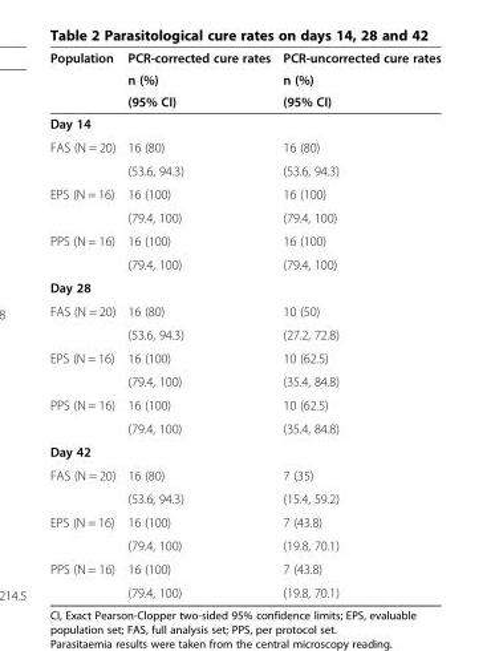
<table><thead><tr><td rowspan="3">Population</td><td rowspan="3">PCR-corrected cure rates n (%) (95% CI)</td><td rowspan="3">PCR-uncorrected cure rates n (%) (95% CI)</td></tr><tr></tr><tr></tr></thead><tbody><tr><td colspan="3">Day 14</td></tr><tr><td rowspan="2">FAS (N = 20)</td><td>16 (80)</td><td>16 (80)</td></tr><tr><td>(53.6, 94.3)</td><td>(53.6, 94.3)</td></tr><tr><td rowspan="2">EPS (N = 16)</td><td>16 (100)</td><td>16 (100)</td></tr><tr><td>(79.4, 100)</td><td>(79.4, 100)</td></tr><tr><td rowspan="2">PPS (N = 16)</td><td>16 (100)</td><td>16 (100)</td></tr><tr><td>(79.4, 100)</td><td>(79.4, 100)</td></tr><tr><td colspan="3">Day 28</td></tr><tr><td rowspan="2">FAS (N = 20)</td><td>16 (80)</td><td>10 (50)</td></tr><tr><td>(53.6, 94.3)</td><td>(27.2, 72.8)</td></tr><tr><td rowspan="2">EPS (N = 16)</td><td>16 (100)</td><td>10 (62.5)</td></tr><tr><td>(79.4, 100)</td><td>(35.4, 84.8)</td></tr><tr><td rowspan="2">PPS (N = 16)</td><td>16 (100)</td><td>10 (62.5)</td></tr><tr><td>(79.4, 100)</td><td>(35.4, 84.8)</td></tr><tr><td colspan="3">Day 42</td></tr><tr><td rowspan="2">FAS (N = 20)</td><td>16 (80)</td><td>7 (35)</td></tr><tr><td>(53.6, 94.3)</td><td>(15.4, 59.2)</td></tr><tr><td rowspan="2">EPS (N = 16)</td><td>16 (100)</td><td>7 (43.8)</td></tr><tr><td>(79.4, 100)</td><td>(19.8, 70.1)</td></tr><tr><td rowspan="2">PPS (N = 16)</td><td>16 (100)</td><td>7 (43.8)</td></tr><tr><td>(79.4, 100)</td><td>(19.8, 70.1)</td></tr></tbody></table>